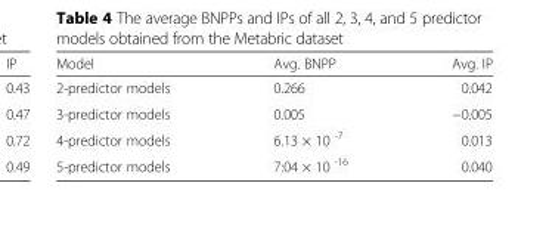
<table><thead><tr><td>Model</td><td>Avg. BNPP</td><td>Avg. IP</td></tr></thead><tbody><tr><td>2-predictor models</td><td>0.266</td><td>0.042</td></tr><tr><td>3-predictor models</td><td>0.005</td><td>−0.005</td></tr><tr><td>4-predictor models</td><td>6.13 × 10 <sup>-7</sup></td><td>0.013</td></tr><tr><td>5-predictor models</td><td>7:04 × 10 <sup>-16</sup></td><td>0.040</td></tr></tbody></table>